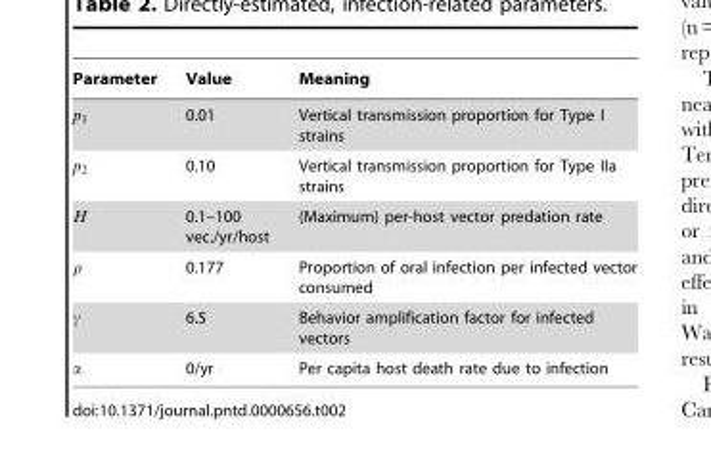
<table><thead><tr><td>Parameter</td><td>Value</td><td>Meaning</td></tr></thead><tbody><tr><td>p1</td><td>0.01</td><td>Vertical transmission proportion for Type I strains</td></tr><tr><td>p2</td><td>0.10</td><td>Vertical transmission proportion for Type IIa strains</td></tr><tr><td>H</td><td>0.1–100 vec./yr/host</td><td>(Maximum) per-host vector predation rate</td></tr><tr><td>r</td><td>0.177</td><td>Proportion of oral infection per infected vector consumed</td></tr><tr><td>c</td><td>6.5</td><td>Behavior amplification factor for infected vectors</td></tr><tr><td>a</td><td>0/yr</td><td>Per capita host death rate due to infection</td></tr></tbody></table>